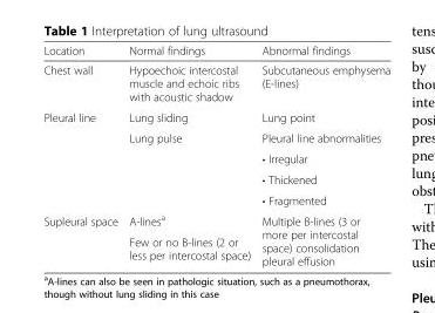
<table><thead><tr><td>Location</td><td>Normal findings</td><td>Abnormal findings</td></tr></thead><tbody><tr><td>Chest wall</td><td>Hypoechoic intercostal muscle and echoic ribs with acoustic shadow</td><td>Subcutaneous emphysema (E-lines)</td></tr><tr><td rowspan="5">Pleural line</td><td>Lung sliding</td><td>Lung point</td></tr><tr><td rowspan="4">Lung pulse</td><td>Pleural line abnormalities</td></tr><tr><td>• Irregular</td></tr><tr><td>• Thickened</td></tr><tr><td>• Fragmented</td></tr><tr><td rowspan="2">Supleural space</td><td>A-lines<sup>a</sup></td><td rowspan="2">Multiple B-lines (3 or more per intercostal space) consolidation pleural effusion</td></tr><tr><td>Few or no B-lines (2 or less per intercostal space)</td></tr></tbody></table>